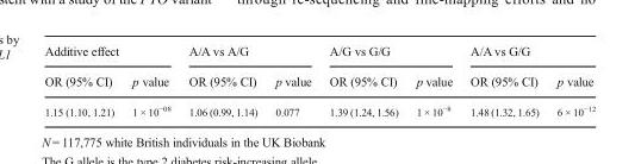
<table><thead><tr><td colspan="2">Additive effect</td><td colspan="2">A/A vs A/G</td><td colspan="2">A/G vs G/G</td><td colspan="2">A/A vs G/G</td></tr><tr><td>OR (95% CI)</td><td>p value</td><td>OR (95% CI)</td><td>p value</td><td>OR (95% CI)</td><td>p value</td><td>OR (95% CI)</td><td>p value</td></tr></thead><tbody><tr><td>1.15 (1.10, 1.21)</td><td>1 × 10<sup>−08</sup></td><td>1.06 (0.99, 1.14)</td><td>0.077</td><td>1.39 (1.24, 1.56)</td><td>1 × 10<sup>−8</sup></td><td>1.48 (1.32, 1.65)</td><td>6 × 10<sup>−12</sup></td></tr></tbody></table>